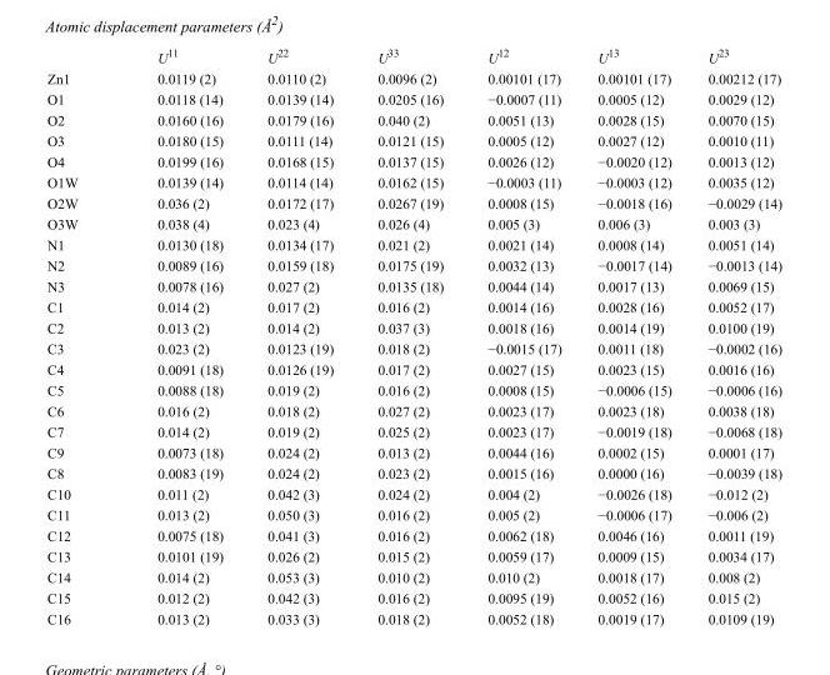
<table><thead><tr><td></td><td>U<sup>11</sup></td><td>U<sup>22</sup></td><td>U<sup>33</sup></td><td>U<sup>12</sup></td><td>U<sup>13</sup></td><td>U<sup>23</sup></td></tr></thead><tbody><tr><td>Zn1</td><td>0.0119 (2)</td><td>0.0110 (2)</td><td>0.0096 (2)</td><td>0.00101 (17)</td><td>0.00101 (17)</td><td>0.00212 (17)</td></tr><tr><td>O1</td><td>0.0118 (14)</td><td>0.0139 (14)</td><td>0.0205 (16)</td><td>−0.0007 (11)</td><td>0.0005 (12)</td><td>0.0029 (12)</td></tr><tr><td>O2</td><td>0.0160 (16)</td><td>0.0179 (16)</td><td>0.040 (2)</td><td>0.0051 (13)</td><td>0.0028 (15)</td><td>0.0070 (15)</td></tr><tr><td>O3</td><td>0.0180 (15)</td><td>0.0111 (14)</td><td>0.0121 (15)</td><td>0.0005 (12)</td><td>0.0027 (12)</td><td>0.0010 (11)</td></tr><tr><td>O4</td><td>0.0199 (16)</td><td>0.0168 (15)</td><td>0.0137 (15)</td><td>0.0026 (12)</td><td>−0.0020 (12)</td><td>0.0013 (12)</td></tr><tr><td>O1W</td><td>0.0139 (14)</td><td>0.0114 (14)</td><td>0.0162 (15)</td><td>−0.0003 (11)</td><td>−0.0003 (12)</td><td>0.0035 (12)</td></tr><tr><td>O2W</td><td>0.036 (2)</td><td>0.0172 (17)</td><td>0.0267 (19)</td><td>0.0008 (15)</td><td>−0.0018 (16)</td><td>−0.0029 (14)</td></tr><tr><td>O3W</td><td>0.038 (4)</td><td>0.023 (4)</td><td>0.026 (4)</td><td>0.005 (3)</td><td>0.006 (3)</td><td>0.003 (3)</td></tr><tr><td>N1</td><td>0.0130 (18)</td><td>0.0134 (17)</td><td>0.021 (2)</td><td>0.0021 (14)</td><td>0.0008 (14)</td><td>0.0051 (14)</td></tr><tr><td>N2</td><td>0.0089 (16)</td><td>0.0159 (18)</td><td>0.0175 (19)</td><td>0.0032 (13)</td><td>−0.0017 (14)</td><td>−0.0013 (14)</td></tr><tr><td>N3</td><td>0.0078 (16)</td><td>0.027 (2)</td><td>0.0135 (18)</td><td>0.0044 (14)</td><td>0.0017 (13)</td><td>0.0069 (15)</td></tr><tr><td>C1</td><td>0.014 (2)</td><td>0.017 (2)</td><td>0.016 (2)</td><td>0.0014 (16)</td><td>0.0028 (16)</td><td>0.0052 (17)</td></tr><tr><td>C2</td><td>0.013 (2)</td><td>0.014 (2)</td><td>0.037 (3)</td><td>0.0018 (16)</td><td>0.0014 (19)</td><td>0.0100 (19)</td></tr><tr><td>C3</td><td>0.023 (2)</td><td>0.0123 (19)</td><td>0.018 (2)</td><td>−0.0015 (17)</td><td>0.0011 (18)</td><td>−0.0002 (16)</td></tr><tr><td>C4</td><td>0.0091 (18)</td><td>0.0126 (19)</td><td>0.017 (2)</td><td>0.0027 (15)</td><td>0.0023 (15)</td><td>0.0016 (16)</td></tr><tr><td>C5</td><td>0.0088 (18)</td><td>0.019 (2)</td><td>0.016 (2)</td><td>0.0008 (15)</td><td>−0.0006 (15)</td><td>−0.0006 (16)</td></tr><tr><td>C6</td><td>0.016 (2)</td><td>0.018 (2)</td><td>0.027 (2)</td><td>0.0023 (17)</td><td>0.0023 (18)</td><td>0.0038 (18)</td></tr><tr><td>C7</td><td>0.014 (2)</td><td>0.019 (2)</td><td>0.025 (2)</td><td>0.0023 (17)</td><td>−0.0019 (18)</td><td>−0.0068 (18)</td></tr><tr><td>C9</td><td>0.0073 (18)</td><td>0.024 (2)</td><td>0.013 (2)</td><td>0.0044 (16)</td><td>0.0002 (15)</td><td>0.0001 (17)</td></tr><tr><td>C8</td><td>0.0083 (19)</td><td>0.024 (2)</td><td>0.023 (2)</td><td>0.0015 (16)</td><td>0.0000 (16)</td><td>−0.0039 (18)</td></tr><tr><td>C10</td><td>0.011 (2)</td><td>0.042 (3)</td><td>0.024 (2)</td><td>0.004 (2)</td><td>−0.0026 (18)</td><td>−0.012 (2)</td></tr><tr><td>C11</td><td>0.013 (2)</td><td>0.050 (3)</td><td>0.016 (2)</td><td>0.005 (2)</td><td>−0.0006 (17)</td><td>−0.006 (2)</td></tr><tr><td>C12</td><td>0.0075 (18)</td><td>0.041 (3)</td><td>0.016 (2)</td><td>0.0062 (18)</td><td>0.0046 (16)</td><td>0.0011 (19)</td></tr><tr><td>C13</td><td>0.0101 (19)</td><td>0.026 (2)</td><td>0.015 (2)</td><td>0.0059 (17)</td><td>0.0009 (15)</td><td>0.0034 (17)</td></tr><tr><td>C14</td><td>0.014 (2)</td><td>0.053 (3)</td><td>0.010 (2)</td><td>0.010 (2)</td><td>0.0018 (17)</td><td>0.008 (2)</td></tr><tr><td>C15</td><td>0.012 (2)</td><td>0.042 (3)</td><td>0.016 (2)</td><td>0.0095 (19)</td><td>0.0052 (16)</td><td>0.015 (2)</td></tr><tr><td>C16</td><td>0.013 (2)</td><td>0.033 (3)</td><td>0.018 (2)</td><td>0.0052 (18)</td><td>0.0019 (17)</td><td>0.0109 (19)</td></tr></tbody></table>